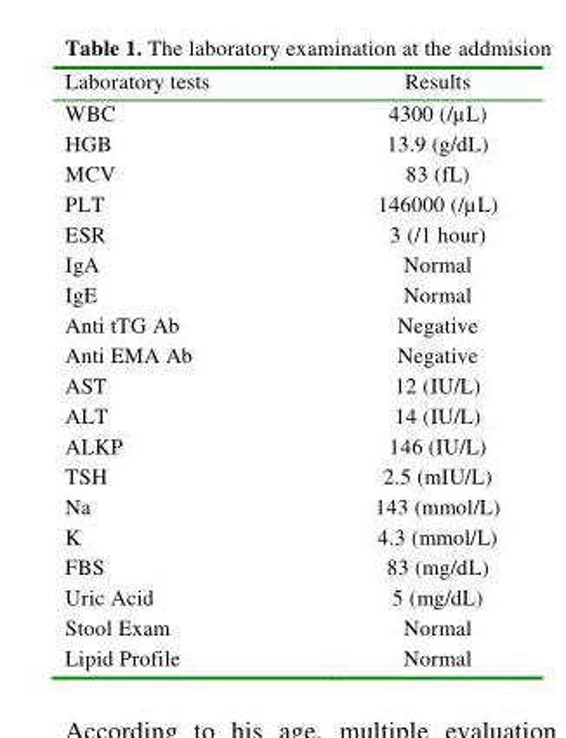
<table><thead><tr><td>Laboratory tests</td><td>Results</td></tr></thead><tbody><tr><td>WBC</td><td>4300 (/µL)</td></tr><tr><td>HGB</td><td>13.9 (g/dL)</td></tr><tr><td>MCV</td><td>83 (fL)</td></tr><tr><td>PLT</td><td>146000 (/µL)</td></tr><tr><td>ESR</td><td>3 (/1 hour)</td></tr><tr><td>IgA</td><td>Normal</td></tr><tr><td>IgE</td><td>Normal</td></tr><tr><td>Anti tTG Ab</td><td>Negative</td></tr><tr><td>Anti EMA Ab</td><td>Negative</td></tr><tr><td>AST</td><td>12 (IU/L)</td></tr><tr><td>ALT</td><td>14 (IU/L)</td></tr><tr><td>ALKP</td><td>146 (IU/L)</td></tr><tr><td>TSH</td><td>2.5 (mIU/L)</td></tr><tr><td>Na</td><td>143 (mmol/L)</td></tr><tr><td>K</td><td>4.3 (mmol/L)</td></tr><tr><td>FBS</td><td>83 (mg/dL)</td></tr><tr><td>Uric Acid</td><td>5 (mg/dL)</td></tr><tr><td>Stool Exam</td><td>Normal</td></tr><tr><td>Lipid Profile</td><td>Normal</td></tr></tbody></table>